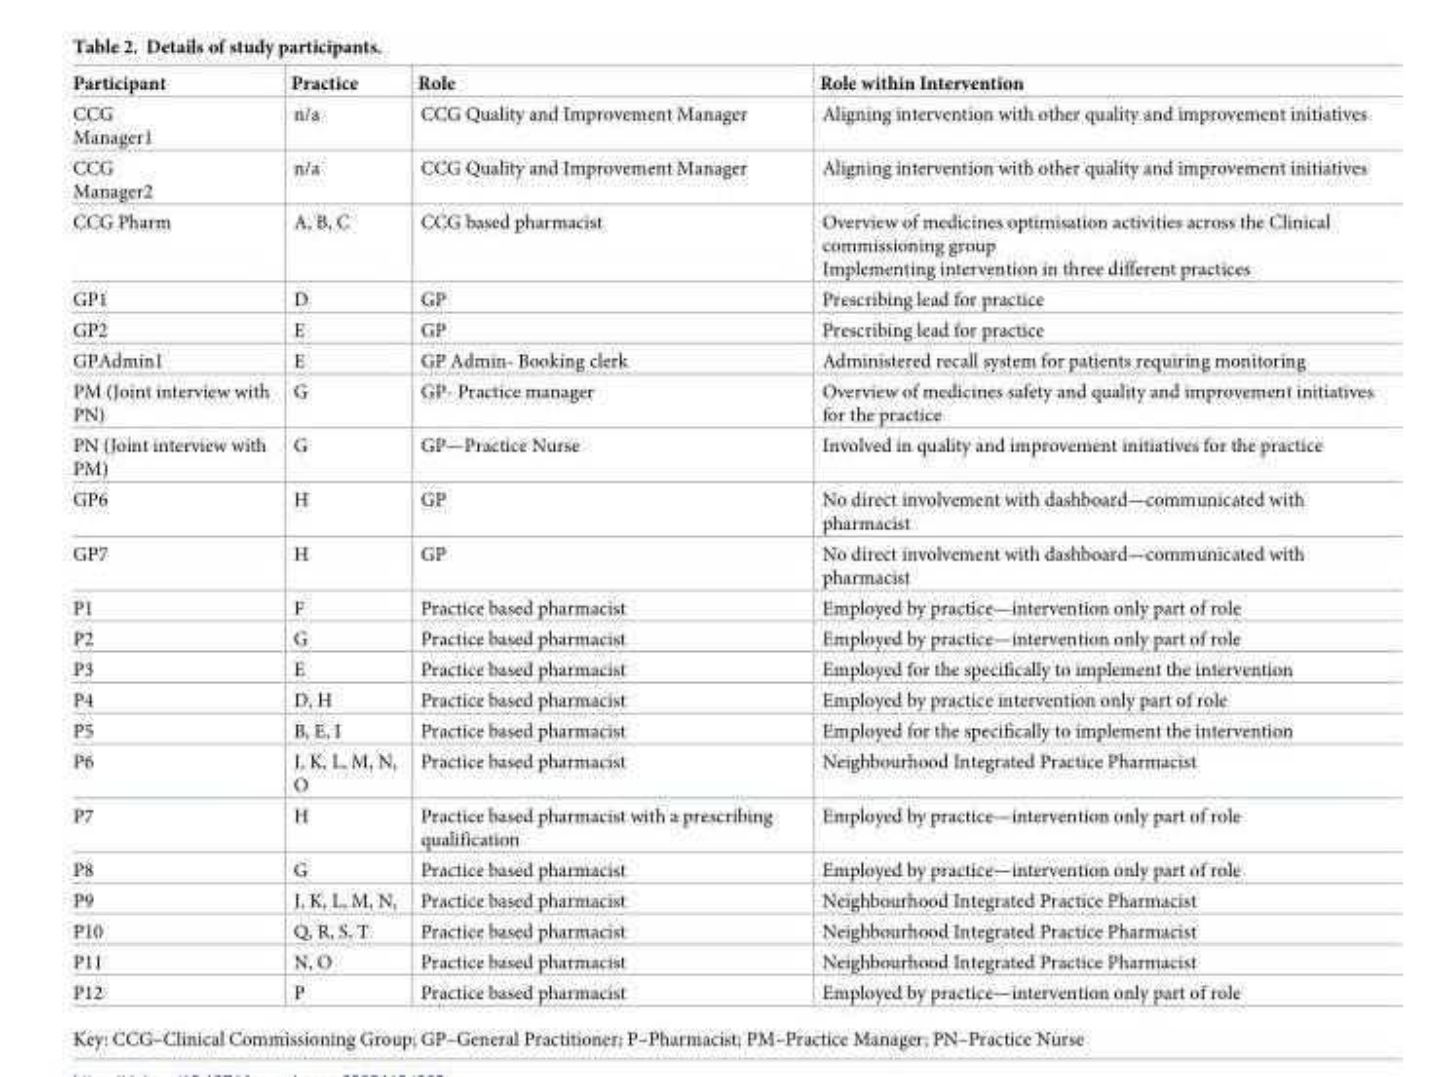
<table><thead><tr><td>Participant</td><td>Practice</td><td>Role</td><td>Role within Intervention</td></tr></thead><tbody><tr><td>CCG Manager1</td><td>n/a</td><td>CCG Quality and Improvement Manager</td><td>Aligning intervention with other quality and improvement initiatives</td></tr><tr><td>CCG Manager2</td><td>n/a</td><td>CCG Quality and Improvement Manager</td><td>Aligning intervention with other quality and improvement initiatives</td></tr><tr><td>CCG Pharm</td><td>A, B, C</td><td>CCG based pharmacist</td><td>Overview of medicines optimisation activities across the Clinical commissioning group Implementing intervention in three different practices</td></tr><tr><td>GP1</td><td>D</td><td>GP</td><td>Prescribing lead for practice</td></tr><tr><td>GP2</td><td>E</td><td>GP</td><td>Prescribing lead for practice</td></tr><tr><td>GPAdmin1</td><td>E</td><td>GP Admin- Booking clerk</td><td>Administered recall system for patients requiring monitoring</td></tr><tr><td>PM (Joint interview with PN)</td><td>G</td><td>GP- Practice manager</td><td>Overview of medicines safety and quality and improvement initiatives for the practice</td></tr><tr><td>PN (Joint interview with PM)</td><td>G</td><td>GP—Practice Nurse</td><td>Involved in quality and improvement initiatives for the practice</td></tr><tr><td>GP6</td><td>H</td><td>GP</td><td>No direct involvement with dashboard—communicated with pharmacist</td></tr><tr><td>GP7</td><td>H</td><td>GP</td><td>No direct involvement with dashboard—communicated with pharmacist</td></tr><tr><td>P1</td><td>F</td><td>Practice based pharmacist</td><td>Employed by practice—intervention only part of role</td></tr><tr><td>P2</td><td>G</td><td>Practice based pharmacist</td><td>Employed by practice—intervention only part of role</td></tr><tr><td>P3</td><td>E</td><td>Practice based pharmacist</td><td>Employed for the specifically to implement the intervention</td></tr><tr><td>P4</td><td>D, H</td><td>Practice based pharmacist</td><td>Employed by practice intervention only part of role</td></tr><tr><td>P5</td><td>B, E, I</td><td>Practice based pharmacist</td><td>Employed for the specifically to implement the intervention</td></tr><tr><td>P6</td><td>J, K, L, M, N, O</td><td>Practice based pharmacist</td><td>Neighbourhood Integrated Practice Pharmacist</td></tr><tr><td>P7</td><td>H</td><td>Practice based pharmacist with a prescribing qualification</td><td>Employed by practice—intervention only part of role</td></tr><tr><td>P8</td><td>G</td><td>Practice based pharmacist</td><td>Employed by practice—intervention only part of role</td></tr><tr><td>P9</td><td>J, K, L, M, N,</td><td>Practice based pharmacist</td><td>Neighbourhood Integrated Practice Pharmacist</td></tr><tr><td>P10</td><td>Q, R, S, T</td><td>Practice based pharmacist</td><td>Neighbourhood Integrated Practice Pharmacist</td></tr><tr><td>P11</td><td>N, O</td><td>Practice based pharmacist</td><td>Neighbourhood Integrated Practice Pharmacist</td></tr><tr><td>P12</td><td>P</td><td>Practice based pharmacist</td><td>Employed by practice—intervention only part of role</td></tr></tbody></table>